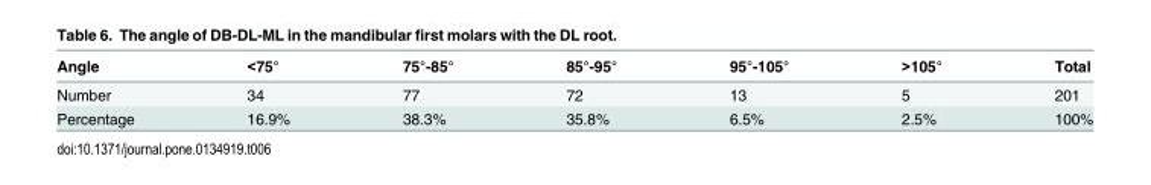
<table><thead><tr><td>Angle</td><td>&lt;75°</td><td>75°-85°</td><td>85°-95°</td><td>95°-105°</td><td>&gt;105°</td><td>Total</td></tr></thead><tbody><tr><td>Number</td><td>34</td><td>77</td><td>72</td><td>13</td><td>5</td><td>201</td></tr><tr><td>Percentage</td><td>16.9%</td><td>38.3%</td><td>35.8%</td><td>6.5%</td><td>2.5%</td><td>100%</td></tr></tbody></table>